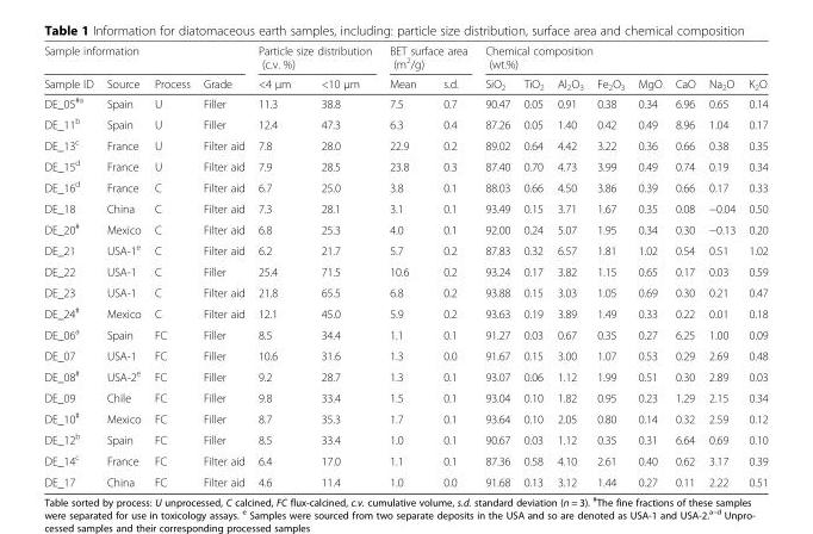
<table><thead><tr><td colspan="4">Sample information</td><td colspan="2">Particle size distribution (c.v. %)</td><td colspan="2">BET surface area (m<sup>2</sup>/g)</td><td colspan="8">Chemical composition (wt.%)</td></tr><tr><td>Sample ID</td><td>Source</td><td>Process</td><td>Grade</td><td>&lt;4 μm</td><td>&lt;10 μm</td><td>Mean</td><td>s.d.</td><td>SiO<sub>2</sub></td><td>TiO<sub>2</sub></td><td>Al<sub>2</sub>O<sub>3</sub></td><td>Fe<sub>2</sub>O<sub>3</sub></td><td>MgO</td><td>CaO</td><td>Na<sub>2</sub>O</td><td>K<sub>2</sub>O</td></tr></thead><tbody><tr><td>DE_05<sup>#a</sup></td><td>Spain</td><td>U</td><td>Filler</td><td>11.3</td><td>38.8</td><td>7.5</td><td>0.7</td><td>90.47</td><td>0.05</td><td>0.91</td><td>0.38</td><td>0.34</td><td>6.96</td><td>0.65</td><td>0.14</td></tr><tr><td>DE_11<sup>b</sup></td><td>Spain</td><td>U</td><td>Filler</td><td>12.4</td><td>47.3</td><td>6.3</td><td>0.4</td><td>87.26</td><td>0.05</td><td>1.40</td><td>0.42</td><td>0.49</td><td>8.96</td><td>1.04</td><td>0.17</td></tr><tr><td>DE_13<sup>c</sup></td><td>France</td><td>U</td><td>Filter aid</td><td>7.8</td><td>28.0</td><td>22.9</td><td>0.2</td><td>89.02</td><td>0.64</td><td>4.42</td><td>3.22</td><td>0.36</td><td>0.66</td><td>0.38</td><td>0.35</td></tr><tr><td>DE_15<sup>d</sup></td><td>France</td><td>U</td><td>Filter aid</td><td>7.9</td><td>28.5</td><td>23.8</td><td>0.3</td><td>87.40</td><td>0.70</td><td>4.73</td><td>3.99</td><td>0.49</td><td>0.74</td><td>0.19</td><td>0.34</td></tr><tr><td>DE_16<sup>d</sup></td><td>France</td><td>C</td><td>Filter aid</td><td>6.7</td><td>25.0</td><td>3.8</td><td>0.1</td><td>88.03</td><td>0.66</td><td>4.50</td><td>3.86</td><td>0.39</td><td>0.66</td><td>0.17</td><td>0.33</td></tr><tr><td>DE_18</td><td>China</td><td>C</td><td>Filter aid</td><td>7.3</td><td>28.1</td><td>3.1</td><td>0.1</td><td>93.49</td><td>0.15</td><td>3.71</td><td>1.67</td><td>0.35</td><td>0.08</td><td>−0.04</td><td>0.50</td></tr><tr><td>DE_20<sup>#</sup></td><td>Mexico</td><td>C</td><td>Filter aid</td><td>6.8</td><td>25.3</td><td>4.0</td><td>0.1</td><td>92.00</td><td>0.24</td><td>5.07</td><td>1.95</td><td>0.34</td><td>0.30</td><td>−0.13</td><td>0.20</td></tr><tr><td>DE_21</td><td>USA-1<sup>e</sup></td><td>C</td><td>Filter aid</td><td>6.2</td><td>21.7</td><td>5.7</td><td>0.2</td><td>87.83</td><td>0.32</td><td>6.57</td><td>1.81</td><td>1.02</td><td>0.54</td><td>0.51</td><td>1.02</td></tr><tr><td>DE_22</td><td>USA-1</td><td>C</td><td>Filler</td><td>25.4</td><td>71.5</td><td>10.6</td><td>0.2</td><td>93.24</td><td>0.17</td><td>3.82</td><td>1.15</td><td>0.65</td><td>0.17</td><td>0.03</td><td>0.59</td></tr><tr><td>DE_23</td><td>USA-1</td><td>C</td><td>Filter aid</td><td>21.8</td><td>65.5</td><td>6.8</td><td>0.2</td><td>93.88</td><td>0.15</td><td>3.03</td><td>1.05</td><td>0.69</td><td>0.30</td><td>0.21</td><td>0.47</td></tr><tr><td>DE_24<sup>#</sup></td><td>Mexico</td><td>C</td><td>Filter aid</td><td>12.1</td><td>45.0</td><td>5.9</td><td>0.2</td><td>93.63</td><td>0.19</td><td>3.89</td><td>1.49</td><td>0.33</td><td>0.22</td><td>0.01</td><td>0.18</td></tr><tr><td>DE_06<sup>a</sup></td><td>Spain</td><td>FC</td><td>Filler</td><td>8.5</td><td>34.4</td><td>1.1</td><td>0.1</td><td>91.27</td><td>0.03</td><td>0.67</td><td>0.35</td><td>0.27</td><td>6.25</td><td>1.00</td><td>0.09</td></tr><tr><td>DE_07</td><td>USA-1</td><td>FC</td><td>Filler</td><td>10.6</td><td>31.6</td><td>1.3</td><td>0.0</td><td>91.67</td><td>0.15</td><td>3.00</td><td>1.07</td><td>0.53</td><td>0.29</td><td>2.69</td><td>0.48</td></tr><tr><td>DE_08<sup>#</sup></td><td>USA-2<sup>e</sup></td><td>FC</td><td>Filler</td><td>9.2</td><td>28.7</td><td>1.3</td><td>0.1</td><td>93.07</td><td>0.06</td><td>1.12</td><td>1.99</td><td>0.51</td><td>0.30</td><td>2.89</td><td>0.03</td></tr><tr><td>DE_09</td><td>Chile</td><td>FC</td><td>Filler</td><td>9.8</td><td>33.4</td><td>1.5</td><td>0.1</td><td>93.04</td><td>0.10</td><td>1.82</td><td>0.95</td><td>0.23</td><td>1.29</td><td>2.15</td><td>0.34</td></tr><tr><td>DE_10<sup>#</sup></td><td>Mexico</td><td>FC</td><td>Filler</td><td>8.7</td><td>35.3</td><td>1.7</td><td>0.1</td><td>93.64</td><td>0.10</td><td>2.05</td><td>0.80</td><td>0.14</td><td>0.32</td><td>2.59</td><td>0.12</td></tr><tr><td>DE_12<sup>b</sup></td><td>Spain</td><td>FC</td><td>Filler</td><td>8.5</td><td>33.4</td><td>1.0</td><td>0.1</td><td>90.67</td><td>0.03</td><td>1.12</td><td>0.35</td><td>0.31</td><td>6.64</td><td>0.69</td><td>0.10</td></tr><tr><td>DE_14<sup>c</sup></td><td>France</td><td>FC</td><td>Filter aid</td><td>6.4</td><td>17.0</td><td>1.1</td><td>0.1</td><td>87.36</td><td>0.58</td><td>4.10</td><td>2.61</td><td>0.40</td><td>0.62</td><td>3.17</td><td>0.39</td></tr><tr><td>DE_17</td><td>China</td><td>FC</td><td>Filter aid</td><td>4.6</td><td>11.4</td><td>1.0</td><td>0.0</td><td>91.68</td><td>0.13</td><td>3.12</td><td>1.44</td><td>0.27</td><td>0.11</td><td>2.22</td><td>0.51</td></tr></tbody></table>